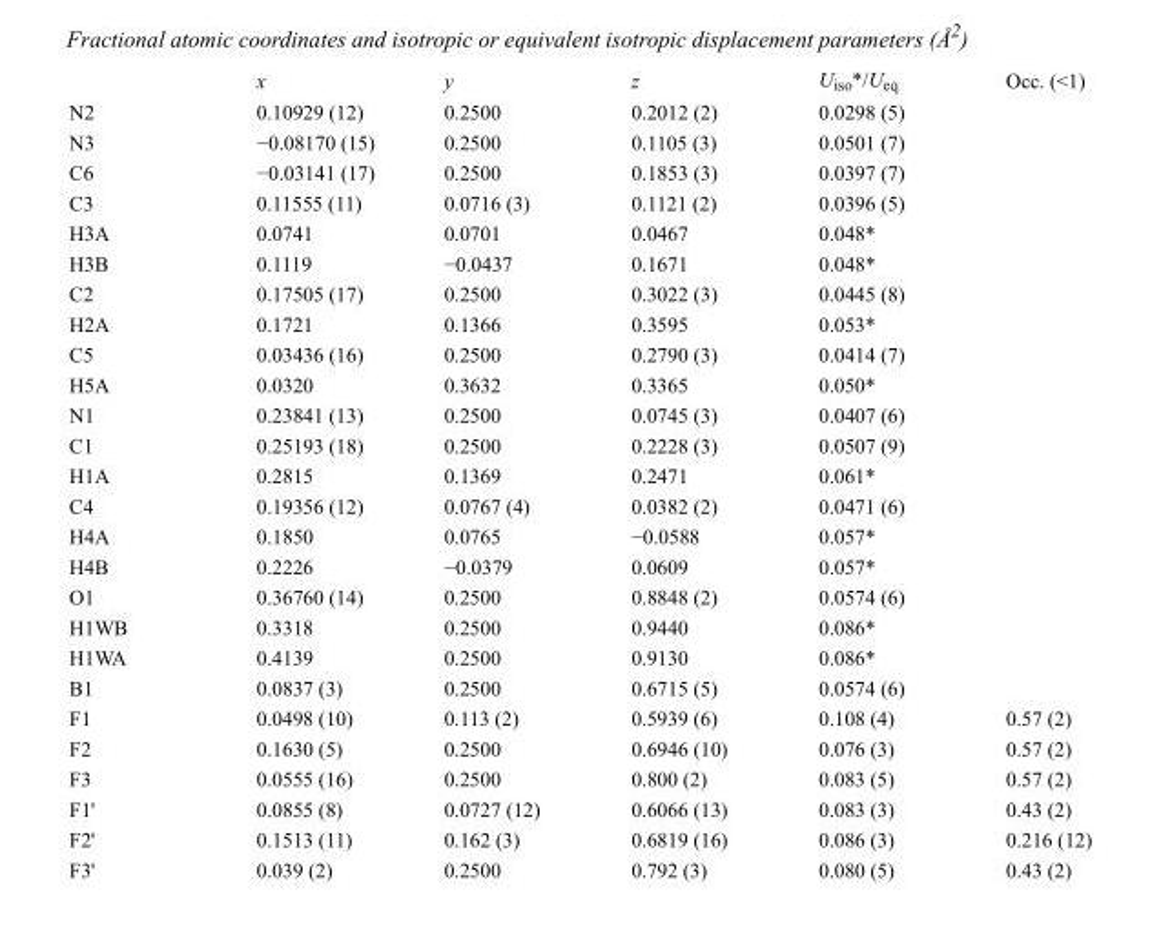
<table><thead><tr><td></td><td>x</td><td>y</td><td>z</td><td>U<sub>iso</sub>*/U<sub>eq</sub></td><td>Occ. (&lt;1)</td></tr></thead><tbody><tr><td>N2</td><td>0.10929 (12)</td><td>0.2500</td><td>0.2012 (2)</td><td>0.0298 (5)</td><td></td></tr><tr><td>N3</td><td>−0.08170 (15)</td><td>0.2500</td><td>0.1105 (3)</td><td>0.0501 (7)</td><td></td></tr><tr><td>C6</td><td>−0.03141 (17)</td><td>0.2500</td><td>0.1853 (3)</td><td>0.0397 (7)</td><td></td></tr><tr><td>C3</td><td>0.11555 (11)</td><td>0.0716 (3)</td><td>0.1121 (2)</td><td>0.0396 (5)</td><td></td></tr><tr><td>H3A</td><td>0.0741</td><td>0.0701</td><td>0.0467</td><td>0.048*</td><td></td></tr><tr><td>H3B</td><td>0.1119</td><td>−0.0437</td><td>0.1671</td><td>0.048*</td><td></td></tr><tr><td>C2</td><td>0.17505 (17)</td><td>0.2500</td><td>0.3022 (3)</td><td>0.0445 (8)</td><td></td></tr><tr><td>H2A</td><td>0.1721</td><td>0.1366</td><td>0.3595</td><td>0.053*</td><td></td></tr><tr><td>C5</td><td>0.03436 (16)</td><td>0.2500</td><td>0.2790 (3)</td><td>0.0414 (7)</td><td></td></tr><tr><td>H5A</td><td>0.0320</td><td>0.3632</td><td>0.3365</td><td>0.050*</td><td></td></tr><tr><td>N1</td><td>0.23841 (13)</td><td>0.2500</td><td>0.0745 (3)</td><td>0.0407 (6)</td><td></td></tr><tr><td>C1</td><td>0.25193 (18)</td><td>0.2500</td><td>0.2228 (3)</td><td>0.0507 (9)</td><td></td></tr><tr><td>H1A</td><td>0.2815</td><td>0.1369</td><td>0.2471</td><td>0.061*</td><td></td></tr><tr><td>C4</td><td>0.19356 (12)</td><td>0.0767 (4)</td><td>0.0382 (2)</td><td>0.0471 (6)</td><td></td></tr><tr><td>H4A</td><td>0.1850</td><td>0.0765</td><td>−0.0588</td><td>0.057*</td><td></td></tr><tr><td>H4B</td><td>0.2226</td><td>−0.0379</td><td>0.0609</td><td>0.057*</td><td></td></tr><tr><td>O1</td><td>0.36760 (14)</td><td>0.2500</td><td>0.8848 (2)</td><td>0.0574 (6)</td><td></td></tr><tr><td>H1WB</td><td>0.3318</td><td>0.2500</td><td>0.9440</td><td>0.086*</td><td></td></tr><tr><td>H1WA</td><td>0.4139</td><td>0.2500</td><td>0.9130</td><td>0.086*</td><td></td></tr><tr><td>B1</td><td>0.0837 (3)</td><td>0.2500</td><td>0.6715 (5)</td><td>0.0574 (6)</td><td></td></tr><tr><td>F1</td><td>0.0498 (10)</td><td>0.113 (2)</td><td>0.5939 (6)</td><td>0.108 (4)</td><td>0.57 (2)</td></tr><tr><td>F2</td><td>0.1630 (5)</td><td>0.2500</td><td>0.6946 (10)</td><td>0.076 (3)</td><td>0.57 (2)</td></tr><tr><td>F3</td><td>0.0555 (16)</td><td>0.2500</td><td>0.800 (2)</td><td>0.083 (5)</td><td>0.57 (2)</td></tr><tr><td>F1&#x27;</td><td>0.0855 (8)</td><td>0.0727 (12)</td><td>0.6066 (13)</td><td>0.083 (3)</td><td>0.43 (2)</td></tr><tr><td>F2&#x27;</td><td>0.1513 (11)</td><td>0.162 (3)</td><td>0.6819 (16)</td><td>0.086 (3)</td><td>0.216 (12)</td></tr><tr><td>F3&#x27;</td><td>0.039 (2)</td><td>0.2500</td><td>0.792 (3)</td><td>0.080 (5)</td><td>0.43 (2)</td></tr></tbody></table>